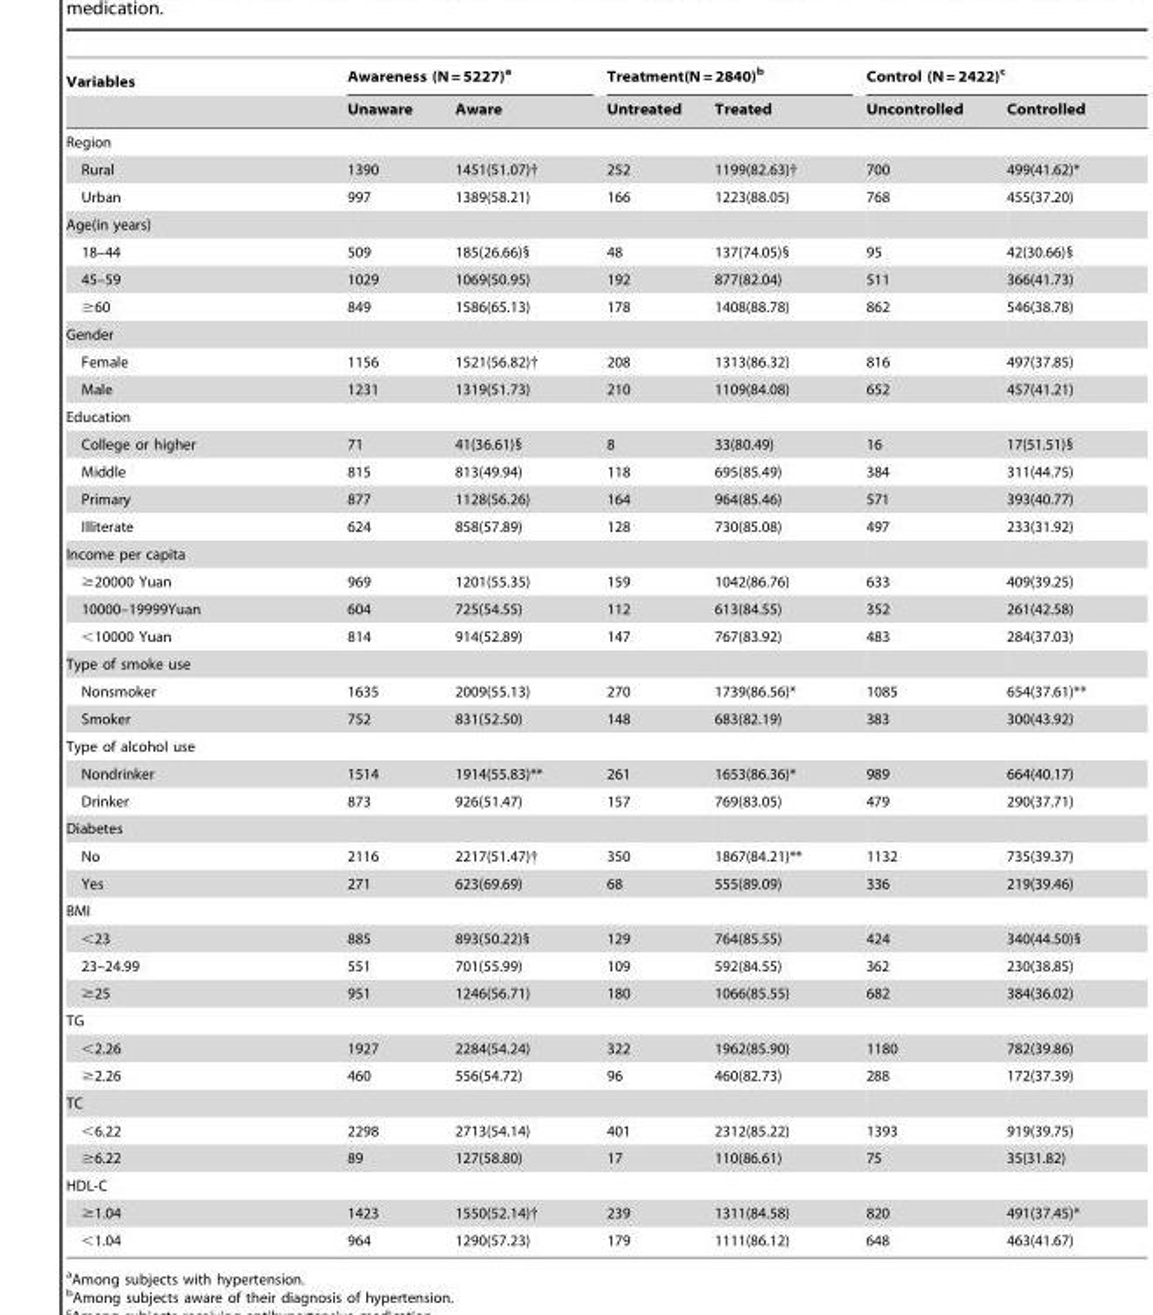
<table><thead><tr><td rowspan="2">Variables</td><td colspan="2">Awareness (N = 5227)<sup>a</sup></td><td colspan="2">Treatment(N = 2840)<sup>b</sup></td><td colspan="2">Control (N = 2422)<sup>c</sup></td></tr><tr><td>Unaware</td><td>Aware</td><td>Untreated</td><td>Treated</td><td>Uncontrolled</td><td>Controlled</td></tr></thead><tbody><tr><td colspan="7">Region</td></tr><tr><td>Rural</td><td>1390</td><td>1451(51.07)†</td><td>252</td><td>1199(82.63)†</td><td>700</td><td>499(41.62)*</td></tr><tr><td>Urban</td><td>997</td><td>1389(58.21)</td><td>166</td><td>1223(88.05)</td><td>768</td><td>455(37.20)</td></tr><tr><td colspan="7">Age(in years)</td></tr><tr><td>18–44</td><td>509</td><td>185(26.66)§</td><td>48</td><td>137(74.05)§</td><td>95</td><td>42(30.66)§</td></tr><tr><td>45–59</td><td>1029</td><td>1069(50.95)</td><td>192</td><td>877(82.04)</td><td>511</td><td>366(41.73)</td></tr><tr><td>≥60</td><td>849</td><td>1586(65.13)</td><td>178</td><td>1408(88.78)</td><td>862</td><td>546(38.78)</td></tr><tr><td colspan="7">Gender</td></tr><tr><td>Female</td><td>1156</td><td>1521(56.82)†</td><td>208</td><td>1313(86.32)</td><td>816</td><td>497(37.85)</td></tr><tr><td>Male</td><td>1231</td><td>1319(51.73)</td><td>210</td><td>1109(84.08)</td><td>652</td><td>457(41.21)</td></tr><tr><td colspan="7">Education</td></tr><tr><td>College or higher</td><td>71</td><td>41(36.61)§</td><td>8</td><td>33(80.49)</td><td>16</td><td>17(51.51)§</td></tr><tr><td>Middle</td><td>815</td><td>813(49.94)</td><td>118</td><td>695(85.49)</td><td>384</td><td>311(44.75)</td></tr><tr><td>Primary</td><td>877</td><td>1128(56.26)</td><td>164</td><td>964(85.46)</td><td>571</td><td>393(40.77)</td></tr><tr><td>Illiterate</td><td>624</td><td>858(57.89)</td><td>128</td><td>730(85.08)</td><td>497</td><td>233(31.92)</td></tr><tr><td colspan="7">Income per capita</td></tr><tr><td>≥20000 Yuan</td><td>969</td><td>1201(55.35)</td><td>159</td><td>1042(86.76)</td><td>633</td><td>409(39.25)</td></tr><tr><td>10000–19999Yuan</td><td>604</td><td>725(54.55)</td><td>112</td><td>613(84.55)</td><td>352</td><td>261(42.58)</td></tr><tr><td>&lt;10000 Yuan</td><td>814</td><td>914(52.89)</td><td>147</td><td>767(83.92)</td><td>483</td><td>284(37.03)</td></tr><tr><td colspan="7">Type of smoke use</td></tr><tr><td>Nonsmoker</td><td>1635</td><td>2009(55.13)</td><td>270</td><td>1739(86.56)*</td><td>1085</td><td>654(37.61)**</td></tr><tr><td>Smoker</td><td>752</td><td>831(52.50)</td><td>148</td><td>683(82.19)</td><td>383</td><td>300(43.92)</td></tr><tr><td colspan="7">Type of alcohol use</td></tr><tr><td>Nondrinker</td><td>1514</td><td>1914(55.83)**</td><td>261</td><td>1653(86.36)*</td><td>989</td><td>664(40.17)</td></tr><tr><td>Drinker</td><td>873</td><td>926(51.47)</td><td>157</td><td>769(83.05)</td><td>479</td><td>290(37.71)</td></tr><tr><td colspan="7">Diabetes</td></tr><tr><td>No</td><td>2116</td><td>2217(51.47)†</td><td>350</td><td>1867(84.21)**</td><td>1132</td><td>735(39.37)</td></tr><tr><td>Yes</td><td>271</td><td>623(69.69)</td><td>68</td><td>555(89.09)</td><td>336</td><td>219(39.46)</td></tr><tr><td colspan="7">BMI</td></tr><tr><td>&lt;23</td><td>885</td><td>893(50.22)§</td><td>129</td><td>764(85.55)</td><td>424</td><td>340(44.50)§</td></tr><tr><td>23–24.99</td><td>551</td><td>701(55.99)</td><td>109</td><td>592(84.55)</td><td>362</td><td>230(38.85)</td></tr><tr><td>≥25</td><td>951</td><td>1246(56.71)</td><td>180</td><td>1066(85.55)</td><td>682</td><td>384(36.02)</td></tr><tr><td colspan="7">TG</td></tr><tr><td>&lt;2.26</td><td>1927</td><td>2284(54.24)</td><td>322</td><td>1962(85.90)</td><td>1180</td><td>782(39.86)</td></tr><tr><td>≥2.26</td><td>460</td><td>556(54.72)</td><td>96</td><td>460(82.73)</td><td>288</td><td>172(37.39)</td></tr><tr><td colspan="7">TC</td></tr><tr><td>&lt;6.22</td><td>2298</td><td>2713(54.14)</td><td>401</td><td>2312(85.22)</td><td>1393</td><td>919(39.75)</td></tr><tr><td>≥6.22</td><td>89</td><td>127(58.80)</td><td>17</td><td>110(86.61)</td><td>75</td><td>35(31.82)</td></tr><tr><td colspan="7">HDL-C</td></tr><tr><td>≥1.04</td><td>1423</td><td>1550(52.14)†</td><td>239</td><td>1311(84.58)</td><td>820</td><td>491(37.45)*</td></tr><tr><td>&lt;1.04</td><td>964</td><td>1290(57.23)</td><td>179</td><td>1111(86.12)</td><td>648</td><td>463(41.67)</td></tr></tbody></table>